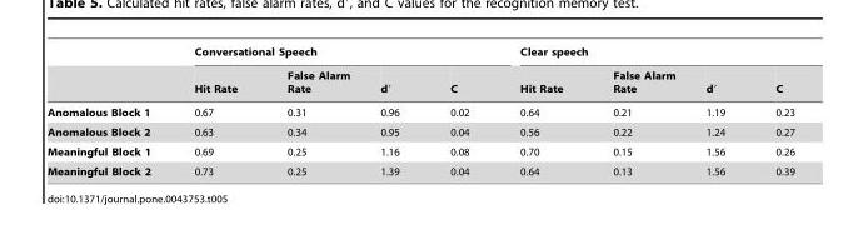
<table><thead><tr><td rowspan="2"></td><td colspan="4">Conversational Speech</td><td colspan="4">Clear speech</td></tr><tr><td>Hit Rate</td><td>False Alarm Rate</td><td>d′</td><td>C</td><td>Hit Rate</td><td>False Alarm Rate</td><td>d′</td><td>C</td></tr></thead><tbody><tr><td>Anomalous Block 1</td><td>0.67</td><td>0.31</td><td>0.96</td><td>0.02</td><td>0.64</td><td>0.21</td><td>1.19</td><td>0.23</td></tr><tr><td>Anomalous Block 2</td><td>0.63</td><td>0.34</td><td>0.95</td><td>0.04</td><td>0.56</td><td>0.22</td><td>1.24</td><td>0.27</td></tr><tr><td>Meaningful Block 1</td><td>0.69</td><td>0.25</td><td>1.16</td><td>0.08</td><td>0.70</td><td>0.15</td><td>1.56</td><td>0.26</td></tr><tr><td>Meaningful Block 2</td><td>0.73</td><td>0.25</td><td>1.39</td><td>0.04</td><td>0.64</td><td>0.13</td><td>1.56</td><td>0.39</td></tr></tbody></table>